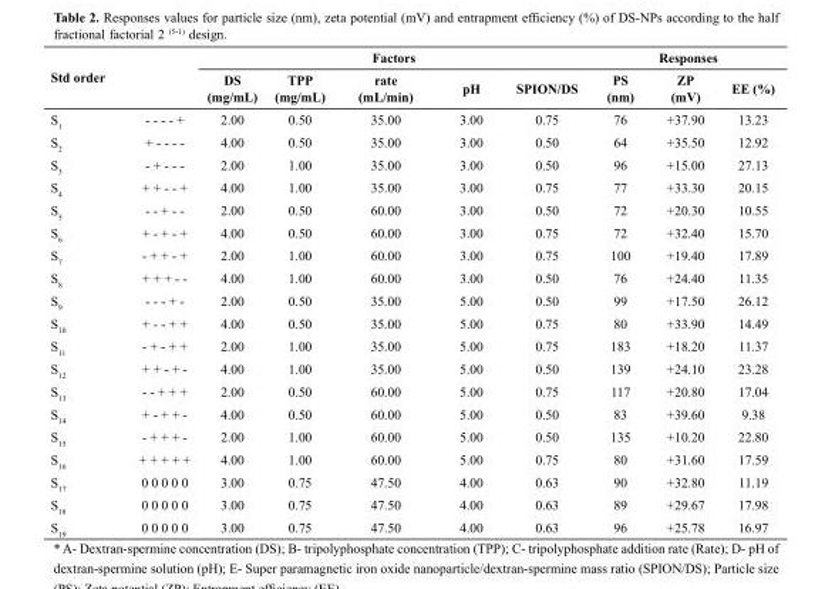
<table><thead><tr><td rowspan="2">Std order</td><td colspan="6">Factors</td><td colspan="3">Responses</td></tr><tr><td></td><td>DS (mg/mL)</td><td>TPP (mg/mL)</td><td>rate (mL/min)</td><td>pH</td><td>SPION/DS</td><td>PS (nm)</td><td>ZP (mV)</td><td>EE (%)</td></tr></thead><tbody><tr><td>S<sub>1</sub></td><td>- - - - +</td><td>2.00</td><td>0.50</td><td>35.00</td><td>3.00</td><td>0.75</td><td>76</td><td>+37.90</td><td>13.23</td></tr><tr><td>S<sub>2</sub></td><td>+ - - - -</td><td>4.00</td><td>0.50</td><td>35.00</td><td>3.00</td><td>0.50</td><td>64</td><td>+35.50</td><td>12.92</td></tr><tr><td>S<sub>3</sub></td><td>- + - - -</td><td>2.00</td><td>1.00</td><td>35.00</td><td>3.00</td><td>0.50</td><td>96</td><td>+15.00</td><td>27.13</td></tr><tr><td>S<sub>4</sub></td><td>+ + - - +</td><td>4.00</td><td>1.00</td><td>35.00</td><td>3.00</td><td>0.75</td><td>77</td><td>+33.30</td><td>20.15</td></tr><tr><td>S<sub>5</sub></td><td>- - + - -</td><td>2.00</td><td>0.50</td><td>60.00</td><td>3.00</td><td>0.50</td><td>72</td><td>+20.30</td><td>10.55</td></tr><tr><td>S<sub>6</sub></td><td>+ - + - +</td><td>4.00</td><td>0.50</td><td>60.00</td><td>3.00</td><td>0.75</td><td>72</td><td>+32.40</td><td>15.70</td></tr><tr><td>S<sub>7</sub></td><td>- + + - +</td><td>2.00</td><td>1.00</td><td>60.00</td><td>3.00</td><td>0.75</td><td>100</td><td>+19.40</td><td>17.89</td></tr><tr><td>S<sub>8</sub></td><td>+ + + - -</td><td>4.00</td><td>1.00</td><td>60.00</td><td>3.00</td><td>0.50</td><td>76</td><td>+24.40</td><td>11.35</td></tr><tr><td>S<sub>9</sub></td><td>- - - + -</td><td>2.00</td><td>0.50</td><td>35.00</td><td>5.00</td><td>0.50</td><td>99</td><td>+17.50</td><td>26.12</td></tr><tr><td>S<sub>10</sub></td><td>+ - - + +</td><td>4.00</td><td>0.50</td><td>35.00</td><td>5.00</td><td>0.75</td><td>80</td><td>+33.90</td><td>14.49</td></tr><tr><td>S<sub>11</sub></td><td>- + - + +</td><td>2.00</td><td>1.00</td><td>35.00</td><td>5.00</td><td>0.75</td><td>183</td><td>+18.20</td><td>11.37</td></tr><tr><td>S<sub>12</sub></td><td>+ + - + -</td><td>4.00</td><td>1.00</td><td>35.00</td><td>5.00</td><td>0.50</td><td>139</td><td>+24.10</td><td>23.28</td></tr><tr><td>S<sub>13</sub></td><td>- - + + +</td><td>2.00</td><td>0.50</td><td>60.00</td><td>5.00</td><td>0.75</td><td>117</td><td>+20.80</td><td>17.04</td></tr><tr><td>S<sub>14</sub></td><td>+ - + + -</td><td>4.00</td><td>0.50</td><td>60.00</td><td>5.00</td><td>0.50</td><td>83</td><td>+39.60</td><td>9.38</td></tr><tr><td>S<sub>15</sub></td><td>- + + + -</td><td>2.00</td><td>1.00</td><td>60.00</td><td>5.00</td><td>0.50</td><td>135</td><td>+10.20</td><td>22.80</td></tr><tr><td>S<sub>16</sub></td><td>+ + + + +</td><td>4.00</td><td>1.00</td><td>60.00</td><td>5.00</td><td>0.75</td><td>80</td><td>+31.60</td><td>17.59</td></tr><tr><td>S<sub>17</sub></td><td>0 0 0 0 0</td><td>3.00</td><td>0.75</td><td>47.50</td><td>4.00</td><td>0.63</td><td>90</td><td>+32.80</td><td>11.19</td></tr><tr><td>S<sub>18</sub></td><td>0 0 0 0 0</td><td>3.00</td><td>0.75</td><td>47.50</td><td>4.00</td><td>0.63</td><td>89</td><td>+29.67</td><td>17.98</td></tr><tr><td>S<sub>19</sub></td><td>0 0 0 0 0</td><td>3.00</td><td>0.75</td><td>47.50</td><td>4.00</td><td>0.63</td><td>96</td><td>+25.78</td><td>16.97</td></tr></tbody></table>